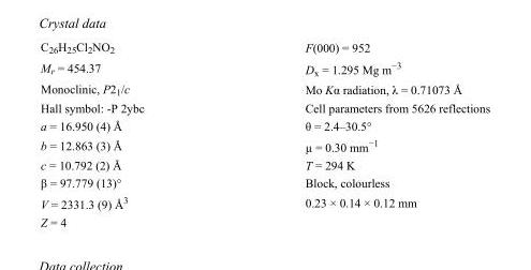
<table><tbody><tr><td>C<sub>26</sub>H<sub>25</sub>Cl<sub>2</sub>NO<sub>2</sub></td><td>F(000) = 952</td></tr><tr><td>M<sub>r</sub> = 454.37</td><td>D<sub>x</sub> = 1.295 Mg m<sup>−3</sup></td></tr><tr><td>Monoclinic, P2<sub>1</sub>/c</td><td>Mo Kα radiation, λ = 0.71073 Å</td></tr><tr><td>Hall symbol: -P 2ybc</td><td>Cell parameters from 5626 reflections</td></tr><tr><td>a = 16.950 (4) Å</td><td>θ = 2.4–30.5°</td></tr><tr><td>b = 12.863 (3) Å</td><td>µ = 0.30 mm<sup>−1</sup></td></tr><tr><td>c = 10.792 (2) Å</td><td>T = 294 K</td></tr><tr><td>β = 97.779 (13)°</td><td>Block, colourless</td></tr><tr><td>V = 2331.3 (9) Å<sup>3</sup></td><td>0.23 × 0.14 × 0.12 mm</td></tr><tr><td>Z = 4</td><td></td></tr></tbody></table>